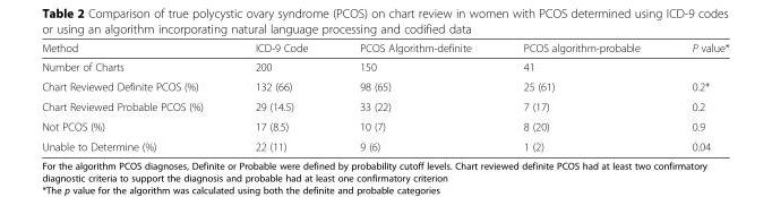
<table><thead><tr><td>Method</td><td>ICD-9 Code</td><td>PCOS Algorithm-definite</td><td>PCOS algorithm-probable</td><td>P value*</td></tr></thead><tbody><tr><td>Number of Charts</td><td>200</td><td>150</td><td>41</td><td></td></tr><tr><td>Chart Reviewed Definite PCOS (%)</td><td>132 (66)</td><td>98 (65)</td><td>25 (61)</td><td>0.2*</td></tr><tr><td>Chart Reviewed Probable PCOS (%)</td><td>29 (14.5)</td><td>33 (22)</td><td>7 (17)</td><td>0.2</td></tr><tr><td>Not PCOS (%)</td><td>17 (8.5)</td><td>10 (7)</td><td>8 (20)</td><td>0.9</td></tr><tr><td>Unable to Determine (%)</td><td>22 (11)</td><td>9 (6)</td><td>1 (2)</td><td>0.04</td></tr></tbody></table>